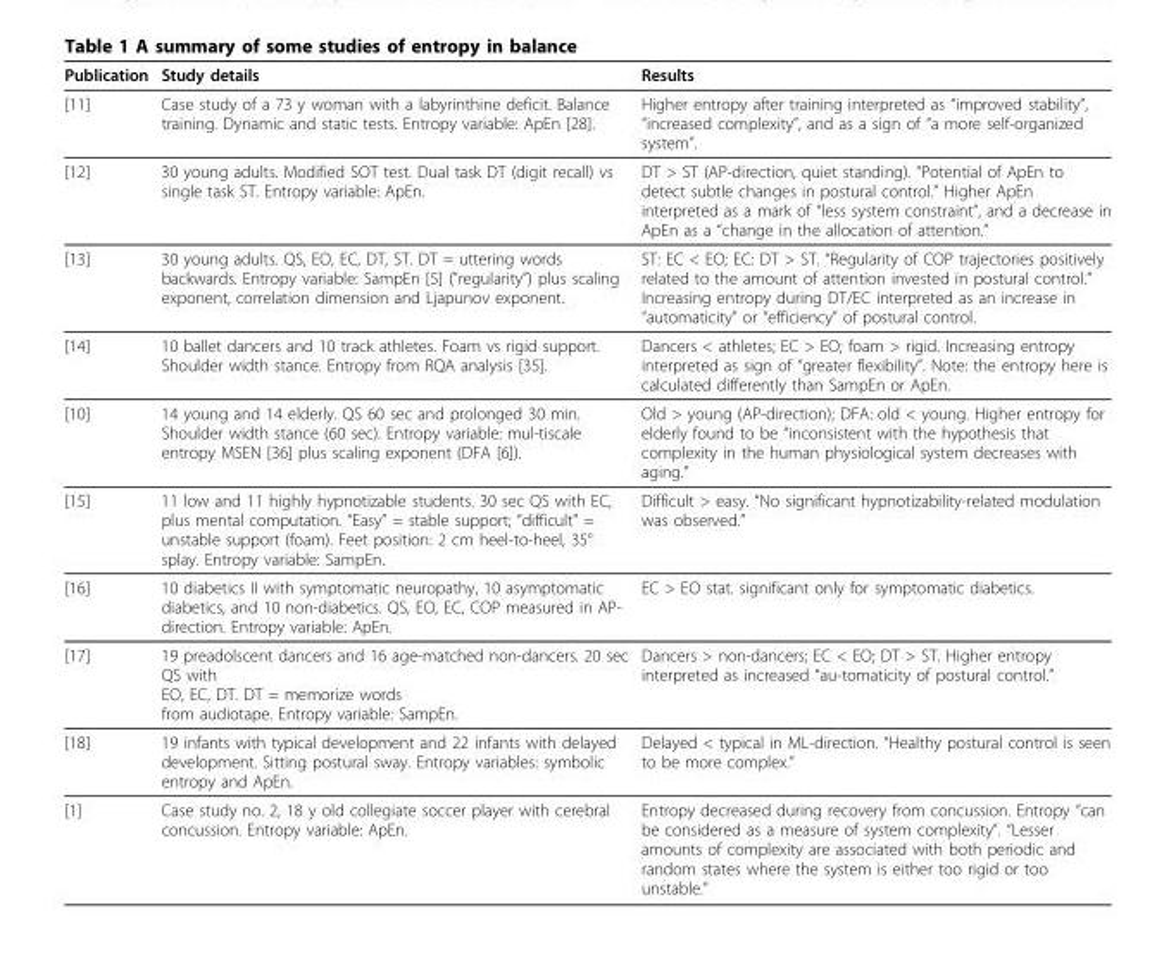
<table><thead><tr><td>Publication</td><td>Study details</td><td>Results</td></tr></thead><tbody><tr><td>[11]</td><td>Case study of a 73 y woman with a labyrinthine deficit. Balance training. Dynamic and static tests. Entropy variable: ApEn [28].</td><td>Higher entropy after training interpreted as “improved stability”, “increased complexity”, and as a sign of “a more self-organized system”.</td></tr><tr><td>[12]</td><td>30 young adults. Modified SOT test. Dual task DT (digit recall) vs single task ST. Entropy variable: ApEn.</td><td>DT &gt; ST (AP-direction, quiet standing). “Potential of ApEn to detect subtle changes in postural control.” Higher ApEn interpreted as a mark of “less system constraint”, and a decrease in ApEn as a “change in the allocation of attention.”</td></tr><tr><td>[13]</td><td>30 young adults. QS, EO, EC, DT, ST. DT = uttering words backwards. Entropy variable: SampEn [5] (&quot;regularity”) plus scaling exponent, correlation dimension and Ljapunov exponent.</td><td>ST: EC &lt; EO; EC: DT &gt; ST. “Regularity of COP trajectories positively related to the amount of attention invested in postural control.” Increasing entropy during DT/EC interpreted as an increase in “automaticity” or “efficiency” of postural control.</td></tr><tr><td>[14]</td><td>10 ballet dancers and 10 track athletes. Foam vs rigid support. Shoulder width stance. Entropy from RQA analysis [35].</td><td>Dancers &lt; athletes; EC &gt; EO; foam &gt; rigid. Increasing entropy interpreted as sign of “greater flexibility”. Note: the entropy here is calculated differently than SampEn or ApEn.</td></tr><tr><td>[10]</td><td>14 young and 14 elderly. QS 60 sec and prolonged 30 min. Shoulder width stance (60 sec). Entropy variable: mul-tiscale entropy MSEN [36] plus scaling exponent (DFA [6]).</td><td>Old &gt; young (AP-direction); DFA: old &lt; young. Higher entropy for elderly found to be “inconsistent with the hypothesis that complexity in the human physiological system decreases with aging.”</td></tr><tr><td>[15]</td><td>11 low and 11 highly hypnotizable students. 30 sec QS with EC, plus mental computation. “Easy” = stable support; “difficult” = unstable support (foam). Feet position: 2 cm heel-to-heel, 35° splay. Entropy variable: SampEn.</td><td>Difficult &gt; easy. “No significant hypnotizability-related modulation was observed.”</td></tr><tr><td>[16]</td><td>10 diabetics II with symptomatic neuropathy, 10 asymptomatic diabetics, and 10 non-diabetics. QS, EO, EC, COP measured in AP- direction. Entropy variable: ApEn.</td><td>EC &gt; EO stat. significant only for symptomatic diabetics.</td></tr><tr><td>[17]</td><td>19 preadolscent dancers and 16 age-matched non-dancers. 20 sec QS with EO, EC, DT. DT = memorize words from audiotape. Entropy variable: SampEn.</td><td>Dancers &gt; non-dancers; EC &lt; EO; DT &gt; ST. Higher entropy interpreted as increased “au-tomaticity of postural control.”</td></tr><tr><td>[18]</td><td>19 infants with typical development and 22 infants with delayed development. Sitting postural sway. Entropy variables: symbolic entropy and ApEn.</td><td>Delayed &lt; typical in ML-direction. “Healthy postural control is seen to be more complex.”</td></tr><tr><td>[1]</td><td>Case study no. 2, 18 y old collegiate soccer player with cerebral concussion. Entropy variable: ApEn.</td><td>Entropy decreased during recovery from concussion. Entropy “can be considered as a measure of system complexity”. “Lesser amounts of complexity are associated with both periodic and random states where the system is either too rigid or too unstable.”</td></tr></tbody></table>